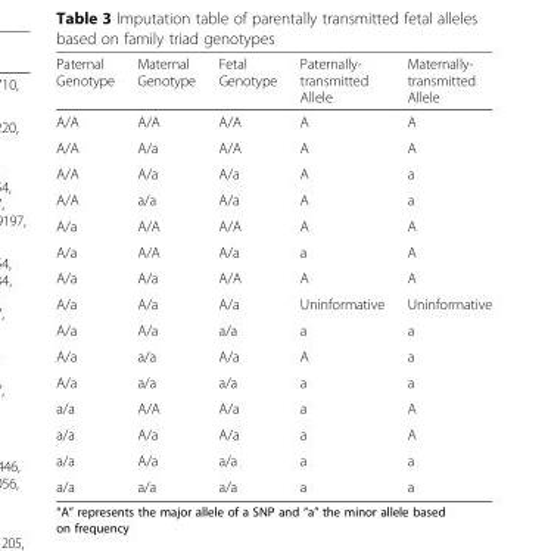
<table><thead><tr><td>Paternal Genotype</td><td>Maternal Genotype</td><td>Fetal Genotype</td><td>Paternally- transmitted Allele</td><td>Maternally- transmitted Allele</td></tr></thead><tbody><tr><td>A/A</td><td>A/A</td><td>A/A</td><td>A</td><td>A</td></tr><tr><td>A/A</td><td>A/a</td><td>A/A</td><td>A</td><td>A</td></tr><tr><td>A/A</td><td>A/a</td><td>A/a</td><td>A</td><td>a</td></tr><tr><td>A/A</td><td>a/a</td><td>A/a</td><td>A</td><td>a</td></tr><tr><td>A/a</td><td>A/A</td><td>A/A</td><td>A</td><td>A</td></tr><tr><td>A/a</td><td>A/A</td><td>A/a</td><td>a</td><td>A</td></tr><tr><td>A/a</td><td>A/a</td><td>A/A</td><td>A</td><td>A</td></tr><tr><td>A/a</td><td>A/a</td><td>A/a</td><td>Uninformative</td><td>Uninformative</td></tr><tr><td>A/a</td><td>A/a</td><td>a/a</td><td>a</td><td>a</td></tr><tr><td>A/a</td><td>a/a</td><td>A/a</td><td>A</td><td>a</td></tr><tr><td>A/a</td><td>a/a</td><td>a/a</td><td>a</td><td>a</td></tr><tr><td>a/a</td><td>A/A</td><td>A/a</td><td>a</td><td>A</td></tr><tr><td>a/a</td><td>A/a</td><td>A/a</td><td>a</td><td>A</td></tr><tr><td>a/a</td><td>A/a</td><td>a/a</td><td>a</td><td>a</td></tr><tr><td>a/a</td><td>a/a</td><td>a/a</td><td>a</td><td>a</td></tr></tbody></table>